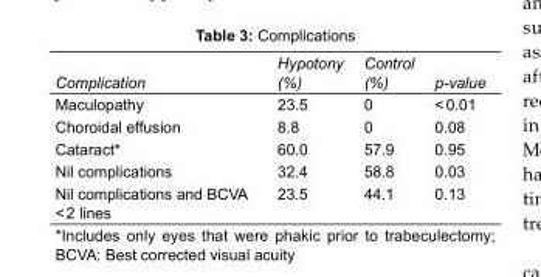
<table><tbody><tr><td>Complication</td><td>Hypotony (%)</td><td>Control (%)</td><td>p-value</td></tr><tr><td>Maculopathy</td><td>23.5</td><td>0</td><td>&lt; 0.01</td></tr><tr><td>Choroidal effusion</td><td>8.8</td><td>0</td><td>0.08</td></tr><tr><td>Cataract*</td><td>60.0</td><td>57.9</td><td>0.95</td></tr><tr><td>Nil complications</td><td>32.4</td><td>58.8</td><td>0.03</td></tr><tr><td>Nil complications and BCVA &lt; 2 lines</td><td>23.5</td><td>44.1</td><td>0.13</td></tr></tbody></table>